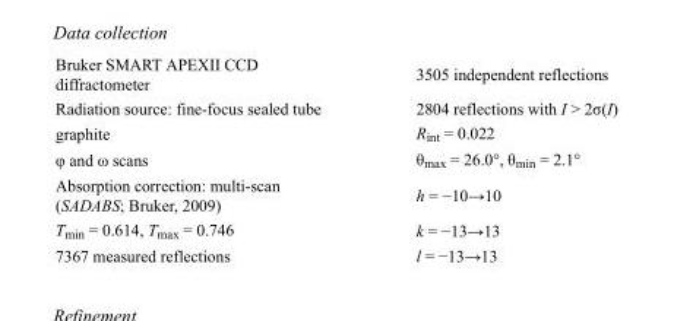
<table><tbody><tr><td>Bruker SMART APEXII CCD diffractometer</td><td>3505 independent reflections</td></tr><tr><td>Radiation source: fine-focus sealed tube</td><td>2804 reflections with I &gt; 2σ(I)</td></tr><tr><td>graphite</td><td>R<sub>int</sub> = 0.022</td></tr><tr><td>φ and ω scans</td><td>θ<sub>max</sub> = 26.0°, θ<sub>min</sub> = 2.1°</td></tr><tr><td>Absorption correction: multi-scan (SADABS; Bruker, 2009)</td><td>h = −10→10</td></tr><tr><td>T<sub>min</sub> = 0.614, T<sub>max</sub> = 0.746</td><td>k = −13→13</td></tr><tr><td>7367 measured reflections</td><td>l = −13→13</td></tr></tbody></table>